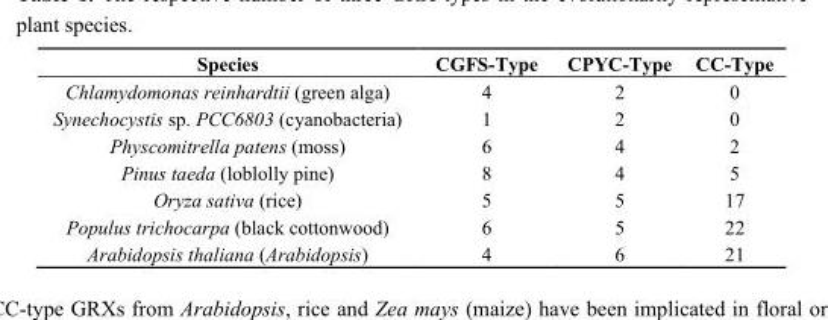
<table><thead><tr><td>Species</td><td>CGFS-Type</td><td>CPYC-Type</td><td>CC-Type</td></tr></thead><tbody><tr><td>Chlamydomonas reinhardtii (green alga)</td><td>4</td><td>2</td><td>0</td></tr><tr><td>Synechocystis sp. PCC6803 (cyanobacteria)</td><td>1</td><td>2</td><td>0</td></tr><tr><td>Physcomitrella patens (moss)</td><td>6</td><td>4</td><td>2</td></tr><tr><td>Pinus taeda (loblolly pine)</td><td>8</td><td>4</td><td>5</td></tr><tr><td>Oryza sativa (rice)</td><td>5</td><td>5</td><td>17</td></tr><tr><td>Populus trichocarpa (black cottonwood)</td><td>6</td><td>5</td><td>22</td></tr><tr><td>Arabidopsis thaliana (Arabidopsis)</td><td>4</td><td>6</td><td>21</td></tr></tbody></table>